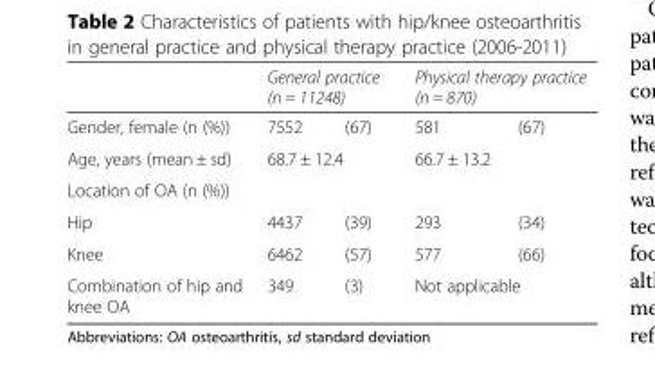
<table><thead><tr><td rowspan="2">Gender, female (n (%))</td><td colspan="2">General practice (n = 11248)</td><td colspan="2">Physical therapy practice (n = 870)</td></tr><tr><td>7552</td><td>(67)</td><td>581</td><td>(67)</td></tr></thead><tbody><tr><td>Age, years (mean ± sd)</td><td colspan="2">68.7 ± 12.4</td><td colspan="2">66.7 ± 13.2</td></tr><tr><td colspan="5">Location of OA (n (%))</td></tr><tr><td>Hip</td><td>4437</td><td>(39)</td><td>293</td><td>(34)</td></tr><tr><td>Knee</td><td>6462</td><td>(57)</td><td>577</td><td>(66)</td></tr><tr><td>Combination of hip and knee OA</td><td>349</td><td>(3)</td><td colspan="2">Not applicable</td></tr></tbody></table>